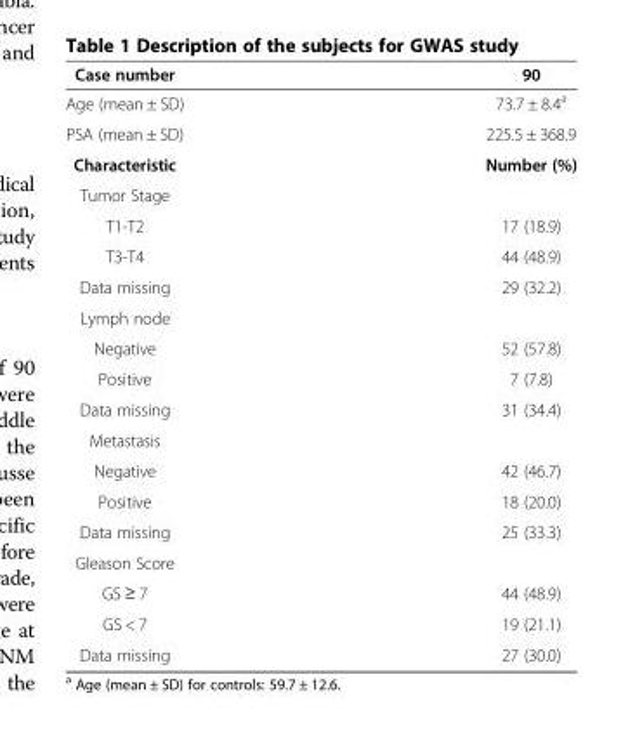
<table><thead><tr><td>Case number</td><td>90</td></tr></thead><tbody><tr><td>Age (mean ± SD)</td><td>73.7 ± 8.4<sup>a</sup></td></tr><tr><td>PSA (mean ± SD)</td><td>225.5 ± 368.9</td></tr><tr><td>Characteristic</td><td>Number (%)</td></tr><tr><td colspan="2">Tumor Stage</td></tr><tr><td>T1-T2</td><td>17 (18.9)</td></tr><tr><td>T3-T4</td><td>44 (48.9)</td></tr><tr><td>Data missing</td><td>29 (32.2)</td></tr><tr><td colspan="2">Lymph node</td></tr><tr><td>Negative</td><td>52 (57.8)</td></tr><tr><td>Positive</td><td>7 (7.8)</td></tr><tr><td>Data missing</td><td>31 (34.4)</td></tr><tr><td colspan="2">Metastasis</td></tr><tr><td>Negative</td><td>42 (46.7)</td></tr><tr><td>Positive</td><td>18 (20.0)</td></tr><tr><td>Data missing</td><td>25 (33.3)</td></tr><tr><td colspan="2">Gleason Score</td></tr><tr><td>GS ≥ 7</td><td>44 (48.9)</td></tr><tr><td>GS &lt; 7</td><td>19 (21.1)</td></tr><tr><td>Data missing</td><td>27 (30.0)</td></tr></tbody></table>